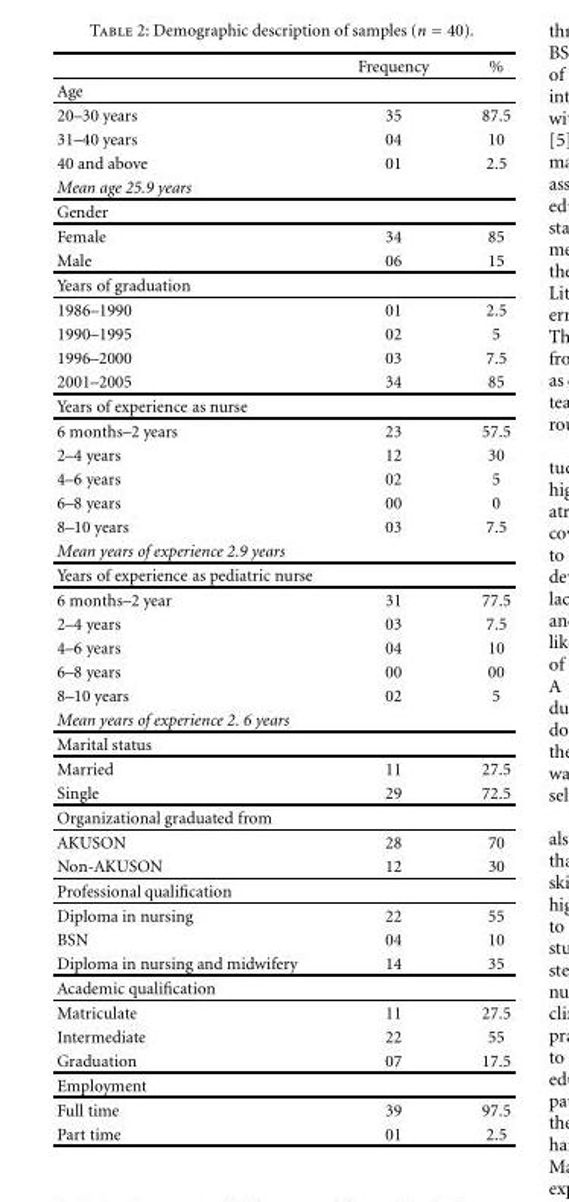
<table><thead><tr><td></td><td>Frequency</td><td>%</td></tr></thead><tbody><tr><td colspan="3">Age</td></tr><tr><td>20–30 years</td><td>35</td><td>87.5</td></tr><tr><td>31–40 years</td><td>04</td><td>10</td></tr><tr><td>40 and above</td><td>01</td><td>2.5</td></tr><tr><td colspan="3">Mean age 25.9 years</td></tr><tr><td colspan="3">Gender</td></tr><tr><td>Female</td><td>34</td><td>85</td></tr><tr><td>Male</td><td>06</td><td>15</td></tr><tr><td colspan="3">Years of graduation</td></tr><tr><td>1986–1990</td><td>01</td><td>2.5</td></tr><tr><td>1990–1995</td><td>02</td><td>5</td></tr><tr><td>1996–2000</td><td>03</td><td>7.5</td></tr><tr><td>2001–2005</td><td>34</td><td>85</td></tr><tr><td colspan="3">Years of experience as nurse</td></tr><tr><td>6 months–2 years</td><td>23</td><td>57.5</td></tr><tr><td>2–4 years</td><td>12</td><td>30</td></tr><tr><td>4–6 years</td><td>02</td><td>5</td></tr><tr><td>6–8 years</td><td>00</td><td>0</td></tr><tr><td>8–10 years</td><td>03</td><td>7.5</td></tr><tr><td colspan="3">Mean years of experience 2.9 years</td></tr><tr><td colspan="3">Years of experience as pediatric nurse</td></tr><tr><td>6 months–2 year</td><td>31</td><td>77.5</td></tr><tr><td>2–4 years</td><td>03</td><td>7.5</td></tr><tr><td>4–6 years</td><td>04</td><td>10</td></tr><tr><td>6–8 years</td><td>00</td><td>00</td></tr><tr><td>8–10 years</td><td>02</td><td>5</td></tr><tr><td colspan="3">Mean years of experience 2. 6 years</td></tr><tr><td colspan="3">Marital status</td></tr><tr><td>Married</td><td>11</td><td>27.5</td></tr><tr><td>Single</td><td>29</td><td>72.5</td></tr><tr><td colspan="3">Organizational graduated from</td></tr><tr><td>AKUSON</td><td>28</td><td>70</td></tr><tr><td>Non-AKUSON</td><td>12</td><td>30</td></tr><tr><td colspan="3">Professional qualification</td></tr><tr><td>Diploma in nursing</td><td>22</td><td>55</td></tr><tr><td>BSN</td><td>04</td><td>10</td></tr><tr><td>Diploma in nursing and midwifery</td><td>14</td><td>35</td></tr><tr><td colspan="3">Academic qualification</td></tr><tr><td>Matriculate</td><td>11</td><td>27.5</td></tr><tr><td>Intermediate</td><td>22</td><td>55</td></tr><tr><td>Graduation</td><td>07</td><td>17.5</td></tr><tr><td colspan="3">Employment</td></tr><tr><td>Full time</td><td>39</td><td>97.5</td></tr><tr><td>Part time</td><td>01</td><td>2.5</td></tr></tbody></table>